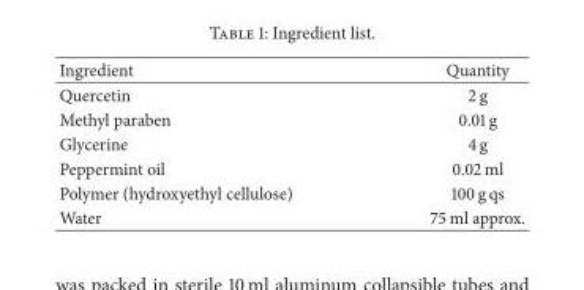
<table><thead><tr><td>Ingredient</td><td>Quantity</td></tr></thead><tbody><tr><td>Quercetin</td><td>2 g</td></tr><tr><td>Methyl paraben</td><td>0.01 g</td></tr><tr><td>Glycerine</td><td>4 g</td></tr><tr><td>Peppermint oil</td><td>0.02 ml</td></tr><tr><td>Polymer (hydroxyethyl cellulose)</td><td>100 g qs</td></tr><tr><td>Water</td><td>75 ml approx.</td></tr></tbody></table>